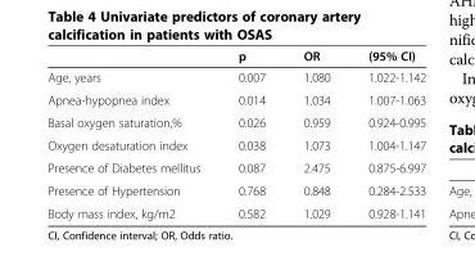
<table><thead><tr><td></td><td>p</td><td>OR</td><td>(95% CI)</td></tr></thead><tbody><tr><td>Age, years</td><td>0.007</td><td>1.080</td><td>1.022-1.142</td></tr><tr><td>Apnea-hypopnea index</td><td>0.014</td><td>1.034</td><td>1.007-1.063</td></tr><tr><td>Basal oxygen saturation,%</td><td>0.026</td><td>0.959</td><td>0.924-0.995</td></tr><tr><td>Oxygen desaturation index</td><td>0.038</td><td>1.073</td><td>1.004-1.147</td></tr><tr><td>Presence of Diabetes mellitus</td><td>0.087</td><td>2.475</td><td>0.875-6.997</td></tr><tr><td>Presence of Hypertension</td><td>0.768</td><td>0.848</td><td>0.284-2.533</td></tr><tr><td>Body mass index, kg/m2</td><td>0.582</td><td>1.029</td><td>0.928-1.141</td></tr></tbody></table>